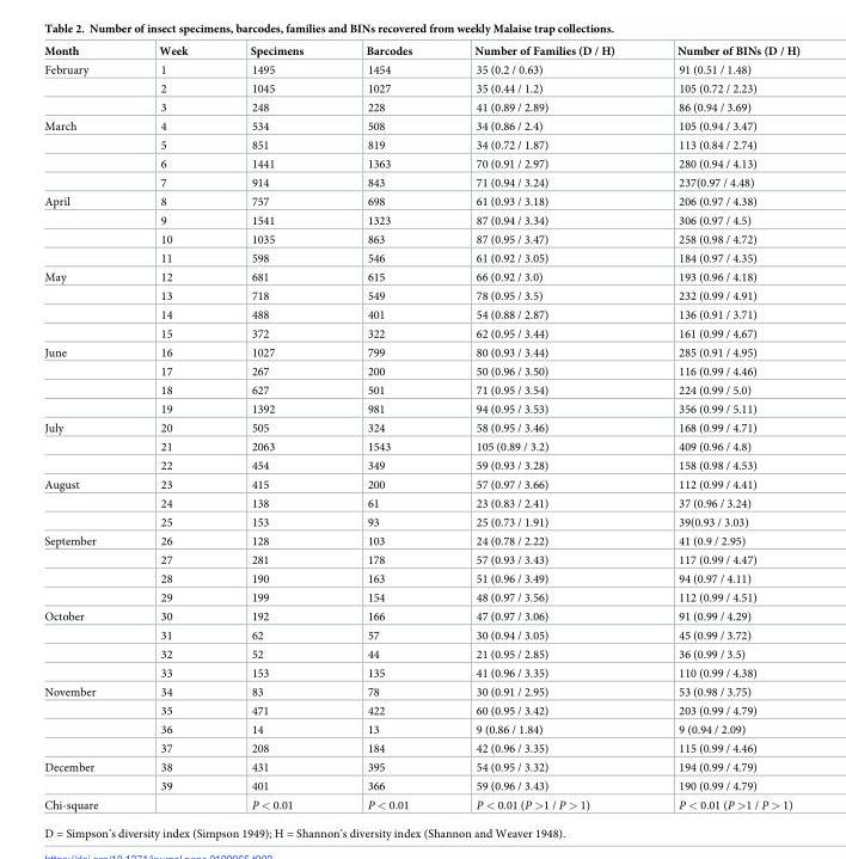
<table><thead><tr><td>Month</td><td>Week</td><td>Specimens</td><td>Barcodes</td><td>Number of Families (D / H)</td><td>Number of BINs (D / H)</td></tr></thead><tbody><tr><td rowspan="3">February</td><td>1</td><td>1495</td><td>1454</td><td>35 (0.2 / 0.63)</td><td>91 (0.51 / 1.48)</td></tr><tr><td>2</td><td>1045</td><td>1027</td><td>35 (0.44 / 1.2)</td><td>105 (0.72 / 2.23)</td></tr><tr><td>3</td><td>248</td><td>228</td><td>41 (0.89 / 2.89)</td><td>86 (0.94 / 3.69)</td></tr><tr><td rowspan="4">March</td><td>4</td><td>534</td><td>508</td><td>34 (0.86 / 2.4)</td><td>105 (0.94 / 3.47)</td></tr><tr><td>5</td><td>851</td><td>819</td><td>34 (0.72 / 1.87)</td><td>113 (0.84 / 2.74)</td></tr><tr><td>6</td><td>1441</td><td>1363</td><td>70 (0.91 / 2.97)</td><td>280 (0.94 / 4.13)</td></tr><tr><td>7</td><td>914</td><td>843</td><td>71 (0.94 / 3.24)</td><td>237(0.97 / 4.48)</td></tr><tr><td rowspan="4">April</td><td>8</td><td>757</td><td>698</td><td>61 (0.93 / 3.18)</td><td>206 (0.97 / 4.38)</td></tr><tr><td>9</td><td>1541</td><td>1323</td><td>87 (0.94 / 3.34)</td><td>306 (0.97 / 4.5)</td></tr><tr><td>10</td><td>1035</td><td>863</td><td>87 (0.95 / 3.47)</td><td>258 (0.98 / 4.72)</td></tr><tr><td>11</td><td>598</td><td>546</td><td>61 (0.92 / 3.05)</td><td>184 (0.97 / 4.35)</td></tr><tr><td rowspan="4">May</td><td>12</td><td>681</td><td>615</td><td>66 (0.92 / 3.0)</td><td>193 (0.96 / 4.18)</td></tr><tr><td>13</td><td>718</td><td>549</td><td>78 (0.95 / 3.5)</td><td>232 (0.99 / 4.91)</td></tr><tr><td>14</td><td>488</td><td>401</td><td>54 (0.88 / 2.87)</td><td>136 (0.91 / 3.71)</td></tr><tr><td>15</td><td>372</td><td>322</td><td>62 (0.95 / 3.44)</td><td>161 (0.99 / 4.67)</td></tr><tr><td rowspan="4">June</td><td>16</td><td>1027</td><td>799</td><td>80 (0.93 / 3.44)</td><td>285 (0.91 / 4.95)</td></tr><tr><td>17</td><td>267</td><td>200</td><td>50 (0.96 / 3.50)</td><td>116 (0.99 / 4.46)</td></tr><tr><td>18</td><td>627</td><td>501</td><td>71 (0.95 / 3.54)</td><td>224 (0.99 / 5.0)</td></tr><tr><td>19</td><td>1392</td><td>981</td><td>94 (0.95 / 3.53)</td><td>356 (0.99 / 5.11)</td></tr><tr><td rowspan="3">July</td><td>20</td><td>505</td><td>324</td><td>58 (0.95 / 3.46)</td><td>168 (0.99 / 4.71)</td></tr><tr><td>21</td><td>2063</td><td>1543</td><td>105 (0.89 / 3.2)</td><td>409 (0.96 / 4.8)</td></tr><tr><td>22</td><td>454</td><td>349</td><td>59 (0.93 / 3.28)</td><td>158 (0.98 / 4.53)</td></tr><tr><td rowspan="3">August</td><td>23</td><td>415</td><td>200</td><td>57 (0.97 / 3.66)</td><td>112 (0.99 / 4.41)</td></tr><tr><td>24</td><td>138</td><td>61</td><td>23 (0.83 / 2.41)</td><td>37 (0.96 / 3.24)</td></tr><tr><td>25</td><td>153</td><td>93</td><td>25 (0.73 / 1.91)</td><td>39(0.93 / 3.03)</td></tr><tr><td rowspan="4">September</td><td>26</td><td>128</td><td>103</td><td>24 (0.78 / 2.22)</td><td>41 (0.9 / 2.95)</td></tr><tr><td>27</td><td>281</td><td>178</td><td>57 (0.93 / 3.43)</td><td>117 (0.99 / 4.47)</td></tr><tr><td>28</td><td>190</td><td>163</td><td>51 (0.96 / 3.49)</td><td>94 (0.97 / 4.11)</td></tr><tr><td>29</td><td>199</td><td>154</td><td>48 (0.97 / 3.56)</td><td>112 (0.99 / 4.51)</td></tr><tr><td rowspan="4">October</td><td>30</td><td>192</td><td>166</td><td>47 (0.97 / 3.06)</td><td>91 (0.99 / 4.29)</td></tr><tr><td>31</td><td>62</td><td>57</td><td>30 (0.94 / 3.05)</td><td>45 (0.99 / 3.72)</td></tr><tr><td>32</td><td>52</td><td>44</td><td>21 (0.95 / 2.85)</td><td>36 (0.99 / 3.5)</td></tr><tr><td>33</td><td>153</td><td>135</td><td>41 (0.96 / 3.35)</td><td>110 (0.99 / 4.38)</td></tr><tr><td rowspan="4">November</td><td>34</td><td>83</td><td>78</td><td>30 (0.91 / 2.95)</td><td>53 (0.98 / 3.75)</td></tr><tr><td>35</td><td>471</td><td>422</td><td>60 (0.95 / 3.42)</td><td>203 (0.99 / 4.79)</td></tr><tr><td>36</td><td>14</td><td>13</td><td>9 (0.86 / 1.84)</td><td>9 (0.94 / 2.09)</td></tr><tr><td>37</td><td>208</td><td>184</td><td>42 (0.96 / 3.35)</td><td>115 (0.99 / 4.46)</td></tr><tr><td rowspan="2">December</td><td>38</td><td>431</td><td>395</td><td>54 (0.95 / 3.32)</td><td>194 (0.99 / 4.79)</td></tr><tr><td>39</td><td>401</td><td>366</td><td>59 (0.96 / 3.43)</td><td>190 (0.99 / 4.79)</td></tr><tr><td>Chi-square</td><td></td><td>P &lt; 0.01</td><td>P &lt; 0.01</td><td>P &lt; 0.01 (P &gt;1 / P &gt; 1)</td><td>P &lt; 0.01 (P &gt;1 / P &gt; 1)</td></tr></tbody></table>